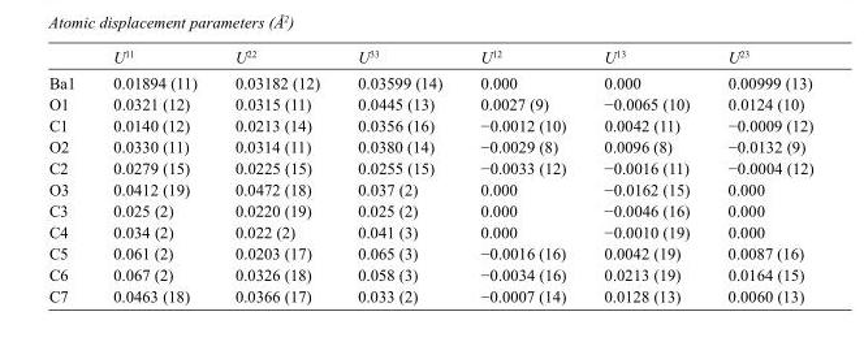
<table><thead><tr><td></td><td>U<sup>11</sup></td><td>U<sup>22</sup></td><td>U<sup>33</sup></td><td>U<sup>12</sup></td><td>U<sup>13</sup></td><td>U<sup>23</sup></td></tr></thead><tbody><tr><td>Ba1</td><td>0.01894 (11)</td><td>0.03182 (12)</td><td>0.03599 (14)</td><td>0.000</td><td>0.000</td><td>0.00999 (13)</td></tr><tr><td>O1</td><td>0.0321 (12)</td><td>0.0315 (11)</td><td>0.0445 (13)</td><td>0.0027 (9)</td><td>−0.0065 (10)</td><td>0.0124 (10)</td></tr><tr><td>C1</td><td>0.0140 (12)</td><td>0.0213 (14)</td><td>0.0356 (16)</td><td>−0.0012 (10)</td><td>0.0042 (11)</td><td>−0.0009 (12)</td></tr><tr><td>O2</td><td>0.0330 (11)</td><td>0.0314 (11)</td><td>0.0380 (14)</td><td>−0.0029 (8)</td><td>0.0096 (8)</td><td>−0.0132 (9)</td></tr><tr><td>C2</td><td>0.0279 (15)</td><td>0.0225 (15)</td><td>0.0255 (15)</td><td>−0.0033 (12)</td><td>−0.0016 (11)</td><td>−0.0004 (12)</td></tr><tr><td>O3</td><td>0.0412 (19)</td><td>0.0472 (18)</td><td>0.037 (2)</td><td>0.000</td><td>−0.0162 (15)</td><td>0.000</td></tr><tr><td>C3</td><td>0.025 (2)</td><td>0.0220 (19)</td><td>0.025 (2)</td><td>0.000</td><td>−0.0046 (16)</td><td>0.000</td></tr><tr><td>C4</td><td>0.034 (2)</td><td>0.022 (2)</td><td>0.041 (3)</td><td>0.000</td><td>−0.0010 (19)</td><td>0.000</td></tr><tr><td>C5</td><td>0.061 (2)</td><td>0.0203 (17)</td><td>0.065 (3)</td><td>−0.0016 (16)</td><td>0.0042 (19)</td><td>0.0087 (16)</td></tr><tr><td>C6</td><td>0.067 (2)</td><td>0.0326 (18)</td><td>0.058 (3)</td><td>−0.0034 (16)</td><td>0.0213 (19)</td><td>0.0164 (15)</td></tr><tr><td>C7</td><td>0.0463 (18)</td><td>0.0366 (17)</td><td>0.033 (2)</td><td>−0.0007 (14)</td><td>0.0128 (13)</td><td>0.0060 (13)</td></tr></tbody></table>